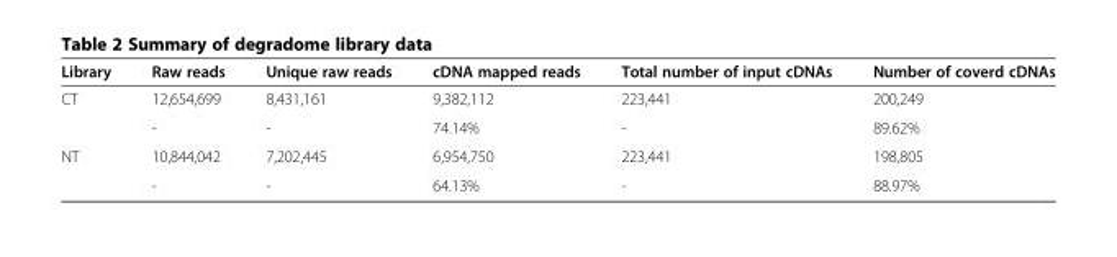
<table><thead><tr><td>Library</td><td>Raw reads</td><td>Unique raw reads</td><td>cDNA mapped reads</td><td>Total number of input cDNAs</td><td>Number of coverd cDNAs</td></tr></thead><tbody><tr><td rowspan="2">CT</td><td>12,654,699</td><td>8,431,161</td><td>9,382,112</td><td>223,441</td><td>200,249</td></tr><tr><td>-</td><td>-</td><td>74.14%</td><td>-</td><td>89.62%</td></tr><tr><td rowspan="2">NT</td><td>10,844,042</td><td>7,202,445</td><td>6,954,750</td><td>223,441</td><td>198,805</td></tr><tr><td>-</td><td>-</td><td>64.13%</td><td>-</td><td>88.97%</td></tr></tbody></table>